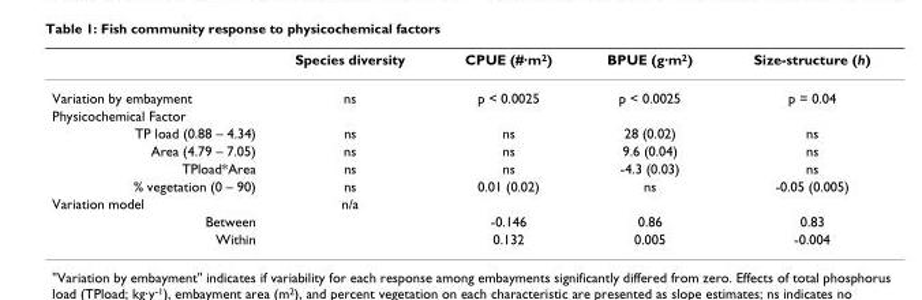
<table><thead><tr><td></td><td>Species diversity</td><td>CPUE (#·m<sup>2</sup>)</td><td>BPUE (g·m<sup>2</sup>)</td><td>Size-structure (h)</td></tr></thead><tbody><tr><td>Variation by embayment</td><td>ns</td><td>p &lt; 0.0025</td><td>p &lt; 0.0025</td><td>p = 0.04</td></tr><tr><td colspan="5">Physicochemical Factor</td></tr><tr><td>TP load (0.88 – 4.34)</td><td>ns</td><td>ns</td><td>28 (0.02)</td><td>ns</td></tr><tr><td>Area (4.79 – 7.05)</td><td>ns</td><td>ns</td><td>9.6 (0.04)</td><td>ns</td></tr><tr><td>TPload*Area</td><td>ns</td><td>ns</td><td>-4.3 (0.03)</td><td>ns</td></tr><tr><td>% vegetation (0 – 90)</td><td>ns</td><td>0.01 (0.02)</td><td>ns</td><td>-0.05 (0.005)</td></tr><tr><td>Variation model</td><td>n/a</td><td></td><td></td><td></td></tr><tr><td>Between</td><td></td><td>-0.146</td><td>0.86</td><td>0.83</td></tr><tr><td>Within</td><td></td><td>0.132</td><td>0.005</td><td>-0.004</td></tr></tbody></table>